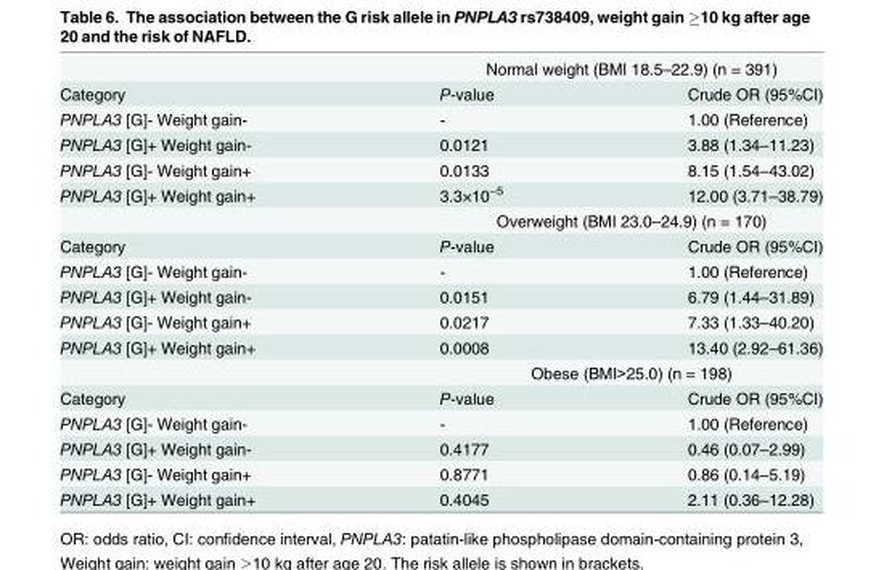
<table><thead><tr><td rowspan="2">Category</td><td colspan="2">Normal weight (BMI 18.5–22.9) (n = 391)</td></tr><tr><td>P-value</td><td>Crude OR (95%CI)</td></tr></thead><tbody><tr><td>PNPLA3 [G]- Weight gain-</td><td>-</td><td>1.00 (Reference)</td></tr><tr><td>PNPLA3 [G]+ Weight gain-</td><td>0.0121</td><td>3.88 (1.34–11.23)</td></tr><tr><td>PNPLA3 [G]- Weight gain+</td><td>0.0133</td><td>8.15 (1.54–43.02)</td></tr><tr><td rowspan="2">PNPLA3 [G]+ Weight gain+</td><td>3.3×10<sup>−5</sup></td><td>12.00 (3.71–38.79)</td></tr><tr><td colspan="2">Overweight (BMI 23.0–24.9) (n = 170)</td></tr><tr><td>Category</td><td>P-value</td><td>Crude OR (95%CI)</td></tr><tr><td>PNPLA3 [G]- Weight gain-</td><td>-</td><td>1.00 (Reference)</td></tr><tr><td>PNPLA3 [G]+ Weight gain-</td><td>0.0151</td><td>6.79 (1.44–31.89)</td></tr><tr><td>PNPLA3 [G]- Weight gain+</td><td>0.0217</td><td>7.33 (1.33–40.20)</td></tr><tr><td rowspan="2">PNPLA3 [G]+ Weight gain+</td><td>0.0008</td><td>13.40 (2.92–61.36)</td></tr><tr><td colspan="2">Obese (BMI&gt;25.0) (n = 198)</td></tr><tr><td>Category</td><td>P-value</td><td>Crude OR (95%CI)</td></tr><tr><td>PNPLA3 [G]- Weight gain-</td><td>-</td><td>1.00 (Reference)</td></tr><tr><td>PNPLA3 [G]+ Weight gain-</td><td>0.4177</td><td>0.46 (0.07–2.99)</td></tr><tr><td>PNPLA3 [G]- Weight gain+</td><td>0.8771</td><td>0.86 (0.14–5.19)</td></tr><tr><td>PNPLA3 [G]+ Weight gain+</td><td>0.4045</td><td>2.11 (0.36–12.28)</td></tr></tbody></table>